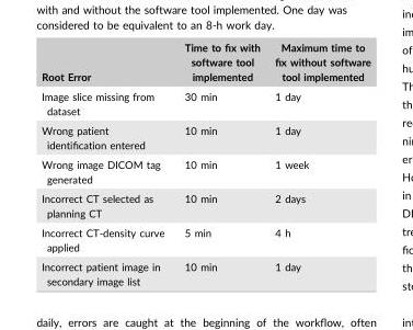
<table><thead><tr><td>Root Error</td><td>Time to fix with software tool implemented</td><td>Maximum time to fix without software tool implemented</td></tr></thead><tbody><tr><td>Image slice missing from dataset</td><td>30 min</td><td>1 day</td></tr><tr><td>Wrong patient identification entered</td><td>10 min</td><td>1 day</td></tr><tr><td>Wrong image DICOM tag generated</td><td>10 min</td><td>1 week</td></tr><tr><td>Incorrect CT selected as planning CT</td><td>10 min</td><td>2 days</td></tr><tr><td>Incorrect CT-density curve applied</td><td>5 min</td><td>4 h</td></tr><tr><td>Incorrect patient image in secondary image list</td><td>10 min</td><td>1 day</td></tr></tbody></table>